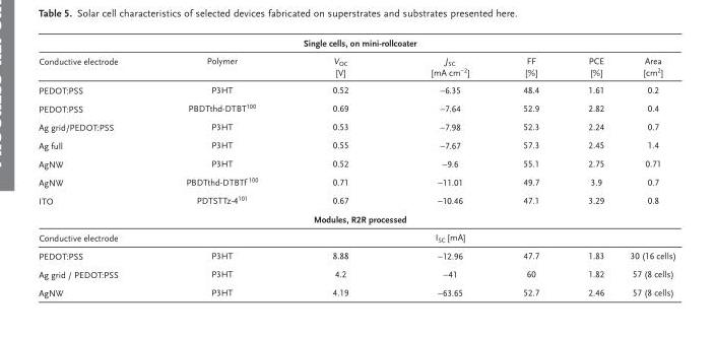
<table><thead><tr><td colspan="7">Single cells, on mini-rollcoater</td></tr><tr><td>Conductive electrode</td><td>Polymer</td><td>V <sub>OC</sub> [V]</td><td>J <sub>SC</sub> [mA cm <sup>−2</sup> ]</td><td>FF [%]</td><td>PCE [%]</td><td>Area [cm <sup>2</sup> ]</td></tr></thead><tbody><tr><td>PEDOT:PSS</td><td>P3HT</td><td>0.52</td><td>−6.35</td><td>48.4</td><td>1.61</td><td>0.2</td></tr><tr><td>PEDOT:PSS</td><td>PBDTthd-DTBT <sup>100</sup></td><td>0.69</td><td>−7.64</td><td>52.9</td><td>2.82</td><td>0.4</td></tr><tr><td>Ag grid/PEDOT:PSS</td><td>P3HT</td><td>0.53</td><td>−7.98</td><td>52.3</td><td>2.24</td><td>0.7</td></tr><tr><td>Ag full</td><td>P3HT</td><td>0.55</td><td>−7.67</td><td>57.3</td><td>2.45</td><td>1.4</td></tr><tr><td>AgNW</td><td>P3HT</td><td>0.52</td><td>−9.6</td><td>55.1</td><td>2.75</td><td>0.71</td></tr><tr><td>AgNW</td><td>PBDTthd-DTBTf 100</td><td>0.71</td><td>−11.01</td><td>49.7</td><td>3.9</td><td>0.7</td></tr><tr><td>ITO</td><td>PDTSTTz-4 <sup>101</sup></td><td>0.67</td><td>−10.46</td><td>47.1</td><td>3.29</td><td>0.8</td></tr><tr><td colspan="7">Modules, R2R processed</td></tr><tr><td>Conductive electrode</td><td></td><td></td><td>I <sub>SC</sub> [mA]</td><td></td><td></td><td></td></tr><tr><td>PEDOT:PSS</td><td>P3HT</td><td>8.88</td><td>−12.96</td><td>47.7</td><td>1.83</td><td>30 (16 cells)</td></tr><tr><td>Ag grid / PEDOT:PSS</td><td>P3HT</td><td>4.2</td><td>−41</td><td>60</td><td>1.82</td><td>57 (8 cells)</td></tr><tr><td>AgNW</td><td>P3HT</td><td>4.19</td><td>−63.65</td><td>52.7</td><td>2.46</td><td>57 (8 cells)</td></tr></tbody></table>